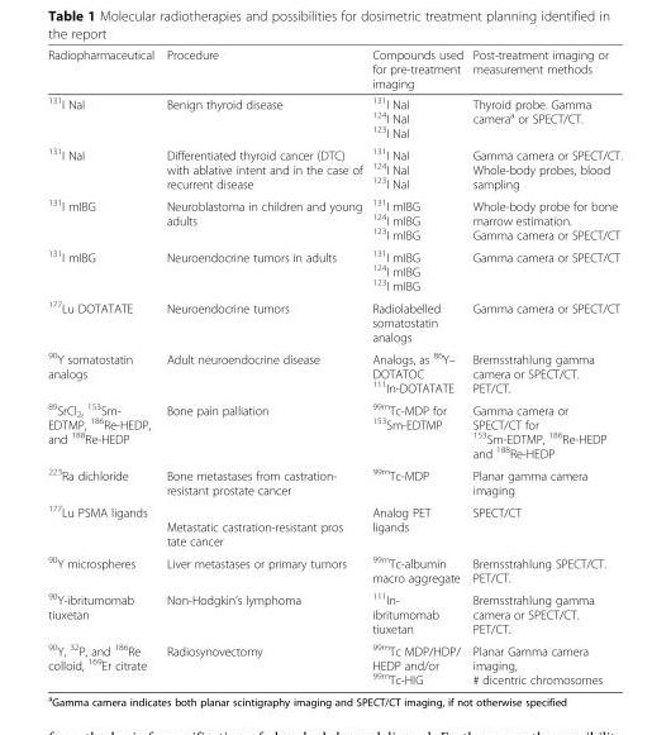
<table><thead><tr><td>Radiopharmaceutical</td><td>Procedure</td><td>Compounds used for pre-treatment imaging</td><td>Post-treatment imaging or measurement methods</td></tr></thead><tbody><tr><td><sup>131</sup>I NaI</td><td>Benign thyroid disease</td><td><sup>131</sup>I NaI <sup>124</sup>I NaI <sup>123</sup>I NaI</td><td>Thyroid probe. Gamma camera<sup>a</sup> or SPECT/CT.</td></tr><tr><td><sup>131</sup>I NaI</td><td>Differentiated thyroid cancer (DTC) with ablative intent and in the case of recurrent disease</td><td><sup>131</sup>I NaI <sup>124</sup>I NaI <sup>123</sup>I NaI</td><td>Gamma camera or SPECT/CT. Whole-body probes, blood sampling</td></tr><tr><td><sup>131</sup>I mIBG</td><td>Neuroblastoma in children and young adults</td><td><sup>131</sup>I mIBG <sup>124</sup>I mIBG <sup>123</sup>I mIBG</td><td>Whole-body probe for bone marrow estimation. Gamma camera or SPECT/CT</td></tr><tr><td><sup>131</sup>I mIBG</td><td>Neuroendocrine tumors in adults</td><td><sup>131</sup>I mIBG <sup>124</sup>I mIBG <sup>123</sup>I mIBG</td><td>Gamma camera or SPECT/CT</td></tr><tr><td><sup>177</sup>Lu DOTATATE</td><td>Neuroendocrine tumors</td><td>Radiolabelled somatostatin analogs</td><td>Gamma camera or SPECT/CT</td></tr><tr><td><sup>90</sup>Y somatostatin analogs</td><td>Adult neuroendocrine disease</td><td>Analogs, as <sup>86</sup>Y– DOTATOC <sup>111</sup>In-DOTATATE</td><td>Bremsstrahlung gamma camera or SPECT/CT. PET/CT.</td></tr><tr><td><sup>89</sup>SrCl<sub>2</sub>, <sup>153</sup>Sm- EDTMP, <sup>186</sup>Re-HEDP, and <sup>188</sup>Re-HEDP</td><td>Bone pain palliation</td><td><sup>99m</sup>Tc-MDP for <sup>153</sup>Sm-EDTMP</td><td>Gamma camera or SPECT/CT for <sup>153</sup>Sm-EDTMP, <sup>186</sup>Re-HEDP and <sup>188</sup>Re-HEDP</td></tr><tr><td><sup>223</sup>Ra dichloride</td><td>Bone metastases from castration- resistant prostate cancer</td><td><sup>99m</sup>Tc-MDP</td><td>Planar gamma camera imaging</td></tr><tr><td><sup>177</sup>Lu PSMA ligands</td><td>Metastatic castration-resistant pros tate cancer</td><td>Analog PET ligands</td><td>SPECT/CT</td></tr><tr><td><sup>90</sup>Y microspheres</td><td>Liver metastases or primary tumors</td><td><sup>99m</sup>Tc-albumin macro aggregate</td><td>Bremsstrahlung SPECT/CT. PET/CT.</td></tr><tr><td><sup>90</sup>Y-ibritumomab tiuxetan</td><td>Non-Hodgkin’s lymphoma</td><td><sup>111</sup>In- ibritumomab tiuxetan</td><td>Bremsstrahlung gamma camera or SPECT/CT. PET/CT.</td></tr><tr><td><sup>90</sup>Y, <sup>32</sup>P, and <sup>186</sup>Re colloid, <sup>169</sup>Er citrate</td><td>Radiosynovectomy</td><td><sup>99m</sup>Tc MDP/HDP/ HEDP and/or <sup>99m</sup>Tc-HIG</td><td>Planar Gamma camera imaging, # dicentric chromosomes</td></tr></tbody></table>